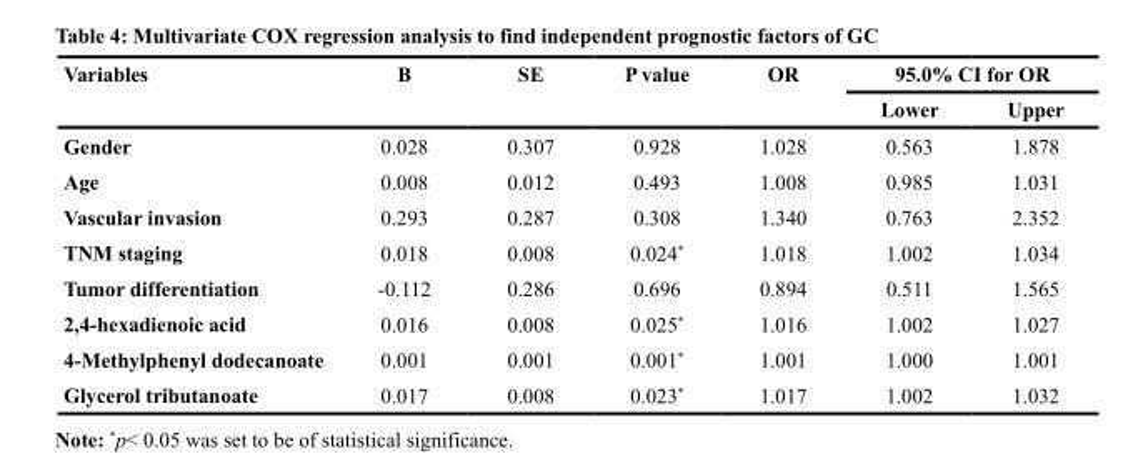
<table><thead><tr><td rowspan="2">Variables</td><td rowspan="2">B</td><td rowspan="2">SE</td><td rowspan="2">P value</td><td rowspan="2">OR</td><td colspan="2">95.0% CI for OR</td></tr><tr><td>Lower</td><td>Upper</td></tr></thead><tbody><tr><td>Gender</td><td>0.028</td><td>0.307</td><td>0.928</td><td>1.028</td><td>0.563</td><td>1.878</td></tr><tr><td>Age</td><td>0.008</td><td>0.012</td><td>0.493</td><td>1.008</td><td>0.985</td><td>1.031</td></tr><tr><td>Vascular invasion</td><td>0.293</td><td>0.287</td><td>0.308</td><td>1.340</td><td>0.763</td><td>2.352</td></tr><tr><td>TNM staging</td><td>0.018</td><td>0.008</td><td>0.024*</td><td>1.018</td><td>1.002</td><td>1.034</td></tr><tr><td>Tumor differentiation</td><td>-0.112</td><td>0.286</td><td>0.696</td><td>0.894</td><td>0.511</td><td>1.565</td></tr><tr><td>2,4-hexadienoic acid</td><td>0.016</td><td>0.008</td><td>0.025*</td><td>1.016</td><td>1.002</td><td>1.027</td></tr><tr><td>4-Methylphenyl dodecanoate</td><td>0.001</td><td>0.001</td><td>0.001*</td><td>1.001</td><td>1.000</td><td>1.001</td></tr><tr><td>Glycerol tributanoate</td><td>0.017</td><td>0.008</td><td>0.023*</td><td>1.017</td><td>1.002</td><td>1.032</td></tr></tbody></table>